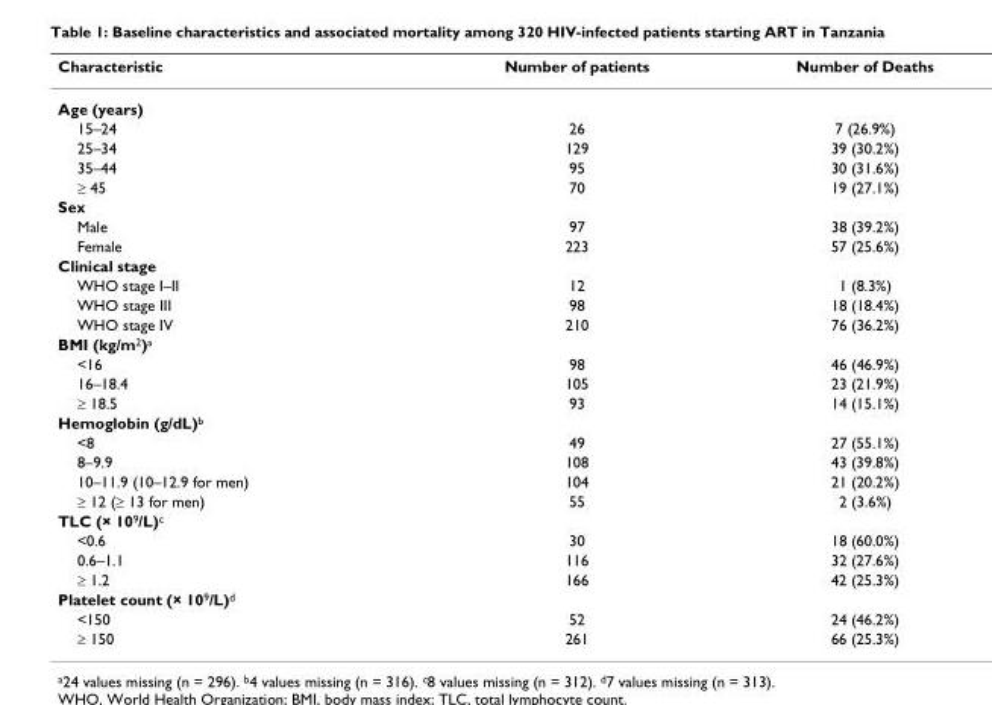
<table><thead><tr><td>Characteristic</td><td>Number of patients</td><td>Number of Deaths</td></tr></thead><tbody><tr><td colspan="3">Age (years)</td></tr><tr><td>15–24</td><td>26</td><td>7 (26.9%)</td></tr><tr><td>25–34</td><td>129</td><td>39 (30.2%)</td></tr><tr><td>35–44</td><td>95</td><td>30 (31.6%)</td></tr><tr><td>≥ 45</td><td>70</td><td>19 (27.1%)</td></tr><tr><td colspan="3">Sex</td></tr><tr><td>Male</td><td>97</td><td>38 (39.2%)</td></tr><tr><td>Female</td><td>223</td><td>57 (25.6%)</td></tr><tr><td colspan="3">Clinical stage</td></tr><tr><td>WHO stage I–II</td><td>12</td><td>1 (8.3%)</td></tr><tr><td>WHO stage III</td><td>98</td><td>18 (18.4%)</td></tr><tr><td>WHO stage IV</td><td>210</td><td>76 (36.2%)</td></tr><tr><td colspan="3">BMI (kg/m<sup>2</sup>)<sup>a</sup></td></tr><tr><td>&lt;16</td><td>98</td><td>46 (46.9%)</td></tr><tr><td>16–18.4</td><td>105</td><td>23 (21.9%)</td></tr><tr><td>≥ 18.5</td><td>93</td><td>14 (15.1%)</td></tr><tr><td colspan="3">Hemoglobin (g/dL)<sup>b</sup></td></tr><tr><td>&lt;8</td><td>49</td><td>27 (55.1%)</td></tr><tr><td>8–9.9</td><td>108</td><td>43 (39.8%)</td></tr><tr><td>10–11.9 (10–12.9 for men)</td><td>104</td><td>21 (20.2%)</td></tr><tr><td>≥ 12 (≥ 13 for men)</td><td>55</td><td>2 (3.6%)</td></tr><tr><td colspan="3">TLC (× 10<sup>9</sup>/L)<sup>c</sup></td></tr><tr><td>&lt;0.6</td><td>30</td><td>18 (60.0%)</td></tr><tr><td>0.6–1.1</td><td>116</td><td>32 (27.6%)</td></tr><tr><td>≥ 1.2</td><td>166</td><td>42 (25.3%)</td></tr><tr><td colspan="3">Platelet count (× 10<sup>9</sup>/L)<sup>d</sup></td></tr><tr><td>&lt;150</td><td>52</td><td>24 (46.2%)</td></tr><tr><td>≥ 150</td><td>261</td><td>66 (25.3%)</td></tr></tbody></table>